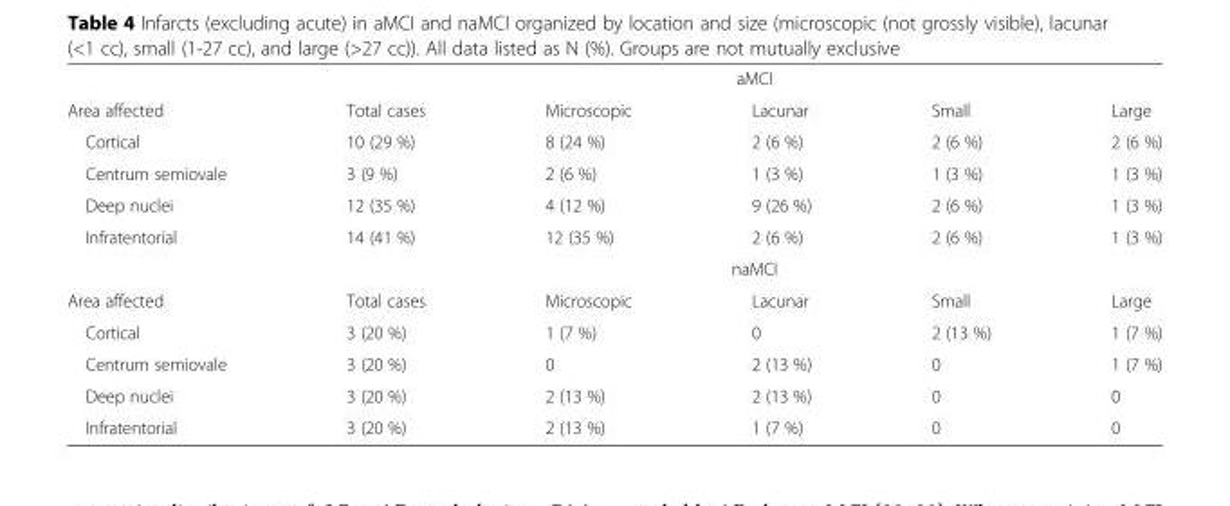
<table><thead><tr><td rowspan="2">Area affected</td><td colspan="5">aMCI</td></tr><tr><td>Total cases</td><td>Microscopic</td><td>Lacunar</td><td>Small</td><td>Large</td></tr></thead><tbody><tr><td>Cortical</td><td>10 (29 %)</td><td>8 (24 %)</td><td>2 (6 %)</td><td>2 (6 %)</td><td>2 (6 %)</td></tr><tr><td>Centrum semiovale</td><td>3 (9 %)</td><td>2 (6 %)</td><td>1 (3 %)</td><td>1 (3 %)</td><td>1 (3 %)</td></tr><tr><td>Deep nuclei</td><td>12 (35 %)</td><td>4 (12 %)</td><td>9 (26 %)</td><td>2 (6 %)</td><td>1 (3 %)</td></tr><tr><td rowspan="2">Infratentorial</td><td>14 (41 %)</td><td>12 (35 %)</td><td>2 (6 %)</td><td>2 (6 %)</td><td>1 (3 %)</td></tr><tr><td colspan="5">naMCI</td></tr><tr><td>Area affected</td><td>Total cases</td><td>Microscopic</td><td>Lacunar</td><td>Small</td><td>Large</td></tr><tr><td>Cortical</td><td>3 (20 %)</td><td>1 (7 %)</td><td>0</td><td>2 (13 %)</td><td>1 (7 %)</td></tr><tr><td>Centrum semiovale</td><td>3 (20 %)</td><td>0</td><td>2 (13 %)</td><td>0</td><td>1 (7 %)</td></tr><tr><td>Deep nuclei</td><td>3 (20 %)</td><td>2 (13 %)</td><td>2 (13 %)</td><td>0</td><td>0</td></tr><tr><td>Infratentorial</td><td>3 (20 %)</td><td>2 (13 %)</td><td>1 (7 %)</td><td>0</td><td>0</td></tr></tbody></table>